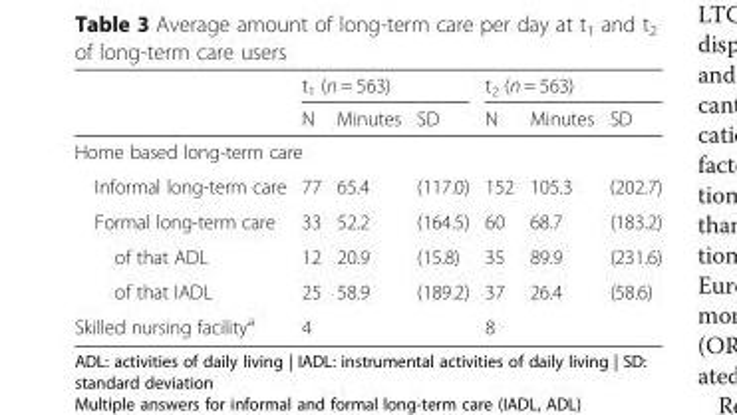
<table><thead><tr><td rowspan="2"></td><td colspan="3">t<sub>1</sub> (n = 563)</td><td colspan="3">t<sub>2</sub> (n = 563)</td></tr><tr><td>N</td><td>Minutes</td><td>SD</td><td>N</td><td>Minutes</td><td>SD</td></tr></thead><tbody><tr><td colspan="7">Home based long-term care</td></tr><tr><td>Informal long-term care</td><td>77</td><td>65.4</td><td>(117.0)</td><td>152</td><td>105.3</td><td>(202.7)</td></tr><tr><td>Formal long-term care</td><td>33</td><td>52.2</td><td>(164.5)</td><td>60</td><td>68.7</td><td>(183.2)</td></tr><tr><td>of that ADL</td><td>12</td><td>20.9</td><td>(15.8)</td><td>35</td><td>89.9</td><td>(231.6)</td></tr><tr><td>of that IADL</td><td>25</td><td>58.9</td><td>(189.2)</td><td>37</td><td>26.4</td><td>(58.6)</td></tr><tr><td>Skilled nursing facility<sup>a</sup></td><td>4</td><td></td><td></td><td>8</td><td></td><td></td></tr></tbody></table>